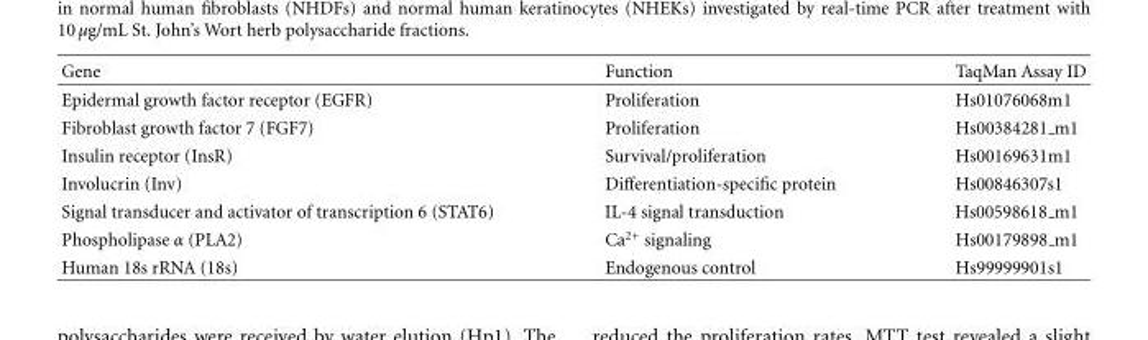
<table><thead><tr><td>Gene</td><td>Function</td><td>TaqMan Assay ID</td></tr></thead><tbody><tr><td>Epidermal growth factor receptor (EGFR)</td><td>Proliferation</td><td>Hs01076068m1</td></tr><tr><td>Fibroblast growth factor 7 (FGF7)</td><td>Proliferation</td><td>Hs00384281 m1</td></tr><tr><td>Insulin receptor (InsR)</td><td>Survival/proliferation</td><td>Hs00169631m1</td></tr><tr><td>Involucrin (Inv)</td><td>Differentiation-specific protein</td><td>Hs00846307s1</td></tr><tr><td>Signal transducer and activator of transcription 6 (STAT6)</td><td>IL-4 signal transduction</td><td>Hs00598618 m1</td></tr><tr><td>Phospholipase α (PLA2)</td><td>Ca<sup>2+</sup> signaling</td><td>Hs00179898 m1</td></tr><tr><td>Human 18s rRNA (18s)</td><td>Endogenous control</td><td>Hs99999901s1</td></tr></tbody></table>